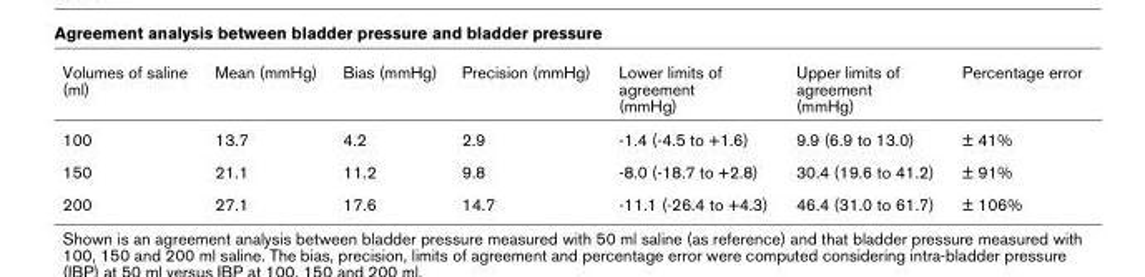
<table><thead><tr><td>Volumes of saline (ml)</td><td>Mean (mmHg)</td><td>Bias (mmHg)</td><td>Precision (mmHg)</td><td>Lower limits of agreement (mmHg)</td><td>Upper limits of agreement (mmHg)</td><td>Percentage error</td></tr></thead><tbody><tr><td>100</td><td>13.7</td><td>4.2</td><td>2.9</td><td>-1.4 (-4.5 to +1.6)</td><td>9.9 (6.9 to 13.0)</td><td>± 41%</td></tr><tr><td>150</td><td>21.1</td><td>11.2</td><td>9.8</td><td>-8.0 (-18.7 to +2.8)</td><td>30.4 (19.6 to 41.2)</td><td>± 91%</td></tr><tr><td>200</td><td>27.1</td><td>17.6</td><td>14.7</td><td>-11.1 (-26.4 to +4.3)</td><td>46.4 (31.0 to 61.7)</td><td>± 106%</td></tr></tbody></table>